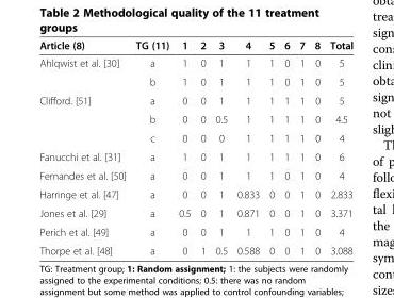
<table><thead><tr><td>Article (8)</td><td>TG (11)</td><td>1</td><td>2</td><td>3</td><td>4</td><td>5</td><td>6</td><td>7</td><td>8</td><td>Total</td></tr></thead><tbody><tr><td rowspan="2">Ahlqwist et al. [30]</td><td>a</td><td>1</td><td>0</td><td>1</td><td>1</td><td>1</td><td>0</td><td>1</td><td>0</td><td>5</td></tr><tr><td>b</td><td>1</td><td>0</td><td>1</td><td>1</td><td>1</td><td>0</td><td>1</td><td>0</td><td>5</td></tr><tr><td rowspan="3">Clifford. [51]</td><td>a</td><td>0</td><td>0</td><td>1</td><td>1</td><td>1</td><td>1</td><td>1</td><td>0</td><td>5</td></tr><tr><td>b</td><td>0</td><td>0</td><td>0.5</td><td>1</td><td>1</td><td>1</td><td>1</td><td>0</td><td>4.5</td></tr><tr><td>c</td><td>0</td><td>0</td><td>0</td><td>1</td><td>1</td><td>1</td><td>1</td><td>0</td><td>4</td></tr><tr><td>Fanucchi et al. [31]</td><td>a</td><td>1</td><td>0</td><td>1</td><td>1</td><td>1</td><td>1</td><td>1</td><td>0</td><td>6</td></tr><tr><td>Fernandes et al. [50]</td><td>a</td><td>0</td><td>0</td><td>1</td><td>1</td><td>1</td><td>0</td><td>1</td><td>0</td><td>4</td></tr><tr><td>Harringe et al. [47]</td><td>a</td><td>0</td><td>0</td><td>1</td><td>0.833</td><td>0</td><td>0</td><td>1</td><td>0</td><td>2.833</td></tr><tr><td>Jones et al. [29]</td><td>a</td><td>0.5</td><td>0</td><td>1</td><td>0.871</td><td>0</td><td>0</td><td>1</td><td>0</td><td>3.371</td></tr><tr><td>Perich et al. [49]</td><td>a</td><td>0</td><td>0</td><td>1</td><td>1</td><td>1</td><td>0</td><td>1</td><td>0</td><td>4</td></tr><tr><td>Thorpe et al. [48]</td><td>a</td><td>0</td><td>1</td><td>0.5</td><td>0.588</td><td>0</td><td>0</td><td>1</td><td>0</td><td>3.088</td></tr></tbody></table>